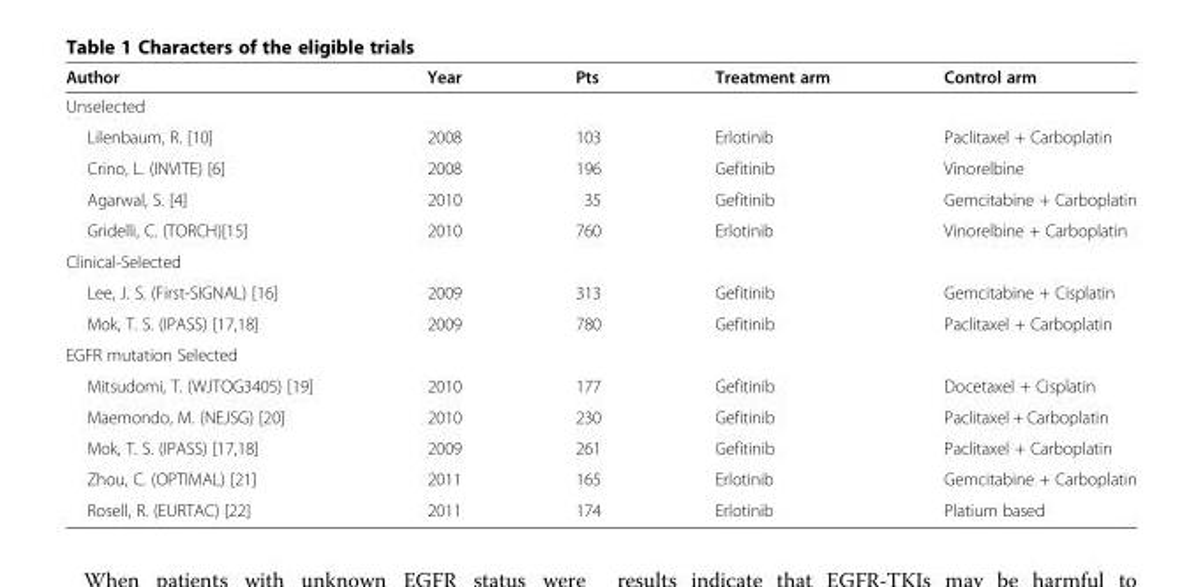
<table><thead><tr><td>Author</td><td>Year</td><td>Pts</td><td>Treatment arm</td><td>Control arm</td></tr></thead><tbody><tr><td colspan="5">Unselected</td></tr><tr><td>Lilenbaum, R. [10]</td><td>2008</td><td>103</td><td>Erlotinib</td><td>Paclitaxel + Carboplatin</td></tr><tr><td>Crino, L. (INVITE) [6]</td><td>2008</td><td>196</td><td>Gefitinib</td><td>Vinorelbine</td></tr><tr><td>Agarwal, S. [4]</td><td>2010</td><td>35</td><td>Gefitinib</td><td>Gemcitabine + Carboplatin</td></tr><tr><td>Gridelli, C. (TORCH)[15]</td><td>2010</td><td>760</td><td>Erlotinib</td><td>Vinorelbine + Carboplatin</td></tr><tr><td colspan="5">Clinical-Selected</td></tr><tr><td>Lee, J. S. (First-SIGNAL) [16]</td><td>2009</td><td>313</td><td>Gefitinib</td><td>Gemcitabine + Cisplatin</td></tr><tr><td>Mok, T. S. (IPASS) [17,18]</td><td>2009</td><td>780</td><td>Gefitinib</td><td>Paclitaxel + Carboplatin</td></tr><tr><td colspan="5">EGFR mutation Selected</td></tr><tr><td>Mitsudomi, T. (WJTOG3405) [19]</td><td>2010</td><td>177</td><td>Gefitinib</td><td>Docetaxel + Cisplatin</td></tr><tr><td>Maemondo, M. (NEJSG) [20]</td><td>2010</td><td>230</td><td>Gefitinib</td><td>Paclitaxel + Carboplatin</td></tr><tr><td>Mok, T. S. (IPASS) [17,18]</td><td>2009</td><td>261</td><td>Gefitinib</td><td>Paclitaxel + Carboplatin</td></tr><tr><td>Zhou, C. (OPTIMAL) [21]</td><td>2011</td><td>165</td><td>Erlotinib</td><td>Gemcitabine + Carboplatin</td></tr><tr><td>Rosell, R. (EURTAC) [22]</td><td>2011</td><td>174</td><td>Erlotinib</td><td>Platium based</td></tr></tbody></table>